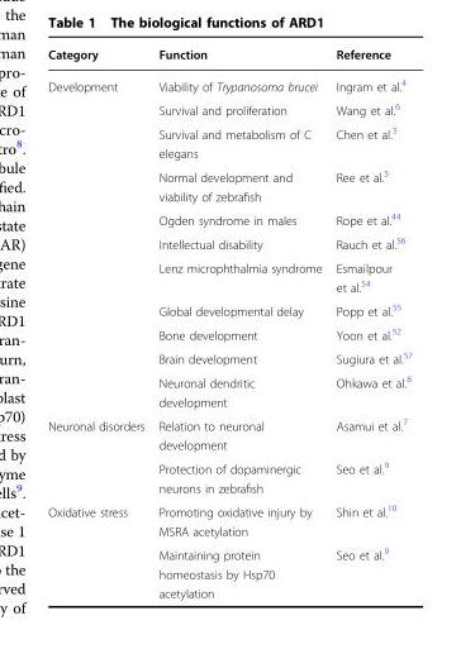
<table><thead><tr><td>Category</td><td>Function</td><td>Reference</td></tr></thead><tbody><tr><td rowspan="11">Development</td><td>Viability of Trypanosoma brucei</td><td>Ingram et al.<sup>4</sup></td></tr><tr><td>Survival and proliferation</td><td>Wang et al.<sup>6</sup></td></tr><tr><td>Survival and metabolism of C elegans</td><td>Chen et al.<sup>3</sup></td></tr><tr><td>Normal development and viability of zebrafish</td><td>Ree et al.<sup>5</sup></td></tr><tr><td>Ogden syndrome in males</td><td>Rope et al.<sup>44</sup></td></tr><tr><td>Intellectual disability</td><td>Rauch et al.<sup>56</sup></td></tr><tr><td>Lenz microphthalmia syndrome</td><td>Esmailpour et al.<sup>54</sup></td></tr><tr><td>Global developmental delay</td><td>Popp et al.<sup>55</sup></td></tr><tr><td>Bone development</td><td>Yoon et al.<sup>52</sup></td></tr><tr><td>Brain development</td><td>Sugiura et al.<sup>57</sup></td></tr><tr><td>Neuronal dendritic development</td><td>Ohkawa et al.<sup>8</sup></td></tr><tr><td rowspan="2">Neuronal disorders</td><td>Relation to neuronal development</td><td>Asamui et al.<sup>7</sup></td></tr><tr><td>Protection of dopaminergic neurons in zebrafish</td><td>Seo et al.<sup>9</sup></td></tr><tr><td rowspan="2">Oxidative stress</td><td>Promoting oxidative injury by MSRA acetylation</td><td>Shin et al.<sup>10</sup></td></tr><tr><td>Maintaining protein homeostasis by Hsp70 acetylation</td><td>Seo et al.<sup>9</sup></td></tr></tbody></table>